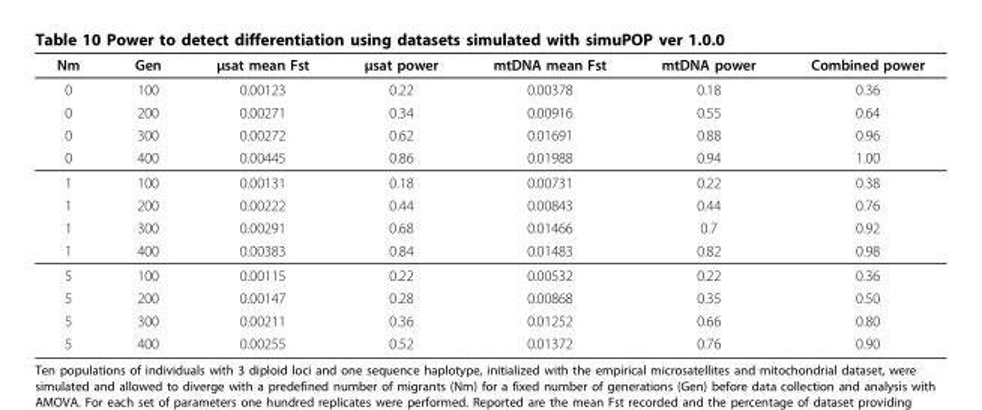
<table><thead><tr><td>Nm</td><td>Gen</td><td>μsat mean Fst</td><td>μsat power</td><td>mtDNA mean Fst</td><td>mtDNA power</td><td>Combined power</td></tr></thead><tbody><tr><td>0</td><td>100</td><td>0.00123</td><td>0.22</td><td>0.00378</td><td>0.18</td><td>0.36</td></tr><tr><td>0</td><td>200</td><td>0.00271</td><td>0.34</td><td>0.00916</td><td>0.55</td><td>0.64</td></tr><tr><td>0</td><td>300</td><td>0.00272</td><td>0.62</td><td>0.01691</td><td>0.88</td><td>0.96</td></tr><tr><td>0</td><td>400</td><td>0.00445</td><td>0.86</td><td>0.01988</td><td>0.94</td><td>1.00</td></tr><tr><td>1</td><td>100</td><td>0.00131</td><td>0.18</td><td>0.00731</td><td>0.22</td><td>0.38</td></tr><tr><td>1</td><td>200</td><td>0.00222</td><td>0.44</td><td>0.00843</td><td>0.44</td><td>0.76</td></tr><tr><td>1</td><td>300</td><td>0.00291</td><td>0.68</td><td>0.01466</td><td>0.7</td><td>0.92</td></tr><tr><td>1</td><td>400</td><td>0.00383</td><td>0.84</td><td>0.01483</td><td>0.82</td><td>0.98</td></tr><tr><td>5</td><td>100</td><td>0.00115</td><td>0.22</td><td>0.00532</td><td>0.22</td><td>0.36</td></tr><tr><td>5</td><td>200</td><td>0.00147</td><td>0.28</td><td>0.00868</td><td>0.35</td><td>0.50</td></tr><tr><td>5</td><td>300</td><td>0.00211</td><td>0.36</td><td>0.01252</td><td>0.66</td><td>0.80</td></tr><tr><td>5</td><td>400</td><td>0.00255</td><td>0.52</td><td>0.01372</td><td>0.76</td><td>0.90</td></tr></tbody></table>